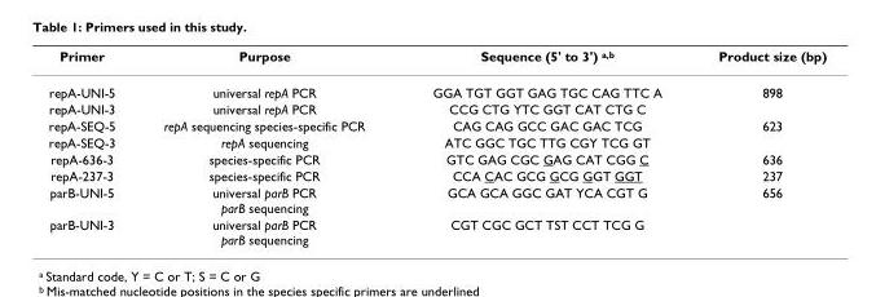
<table><thead><tr><td>Primer</td><td>Purpose</td><td>Sequence (5&#x27; to 3&#x27;) <sup>a,b</sup></td><td>Product size (bp)</td></tr></thead><tbody><tr><td>repA-UNI-5</td><td>universal repA PCR</td><td>GGA TGT GGT GAG TGC CAG TTC A</td><td>898</td></tr><tr><td>repA-UNI-3</td><td>universal repA PCR</td><td>CCG CTG YTC GGT CAT CTG C</td><td></td></tr><tr><td>repA-SEQ-5</td><td>repA sequencing species-specific PCR</td><td>CAG CAG GCC GAC GAC TCG</td><td>623</td></tr><tr><td>repA-SEQ-3</td><td>repA sequencing</td><td>ATC GGC TGC TTG CGY TCG GT</td><td></td></tr><tr><td>repA-636-3</td><td>species-specific PCR</td><td>GTC GAG CGC GAG CAT CGG C</td><td>636</td></tr><tr><td>repA-237-3</td><td>species-specific PCR</td><td>CCA CAC GCG GCG GGT GGT</td><td>237</td></tr><tr><td>parB-UNI-5</td><td>universal parB PCR parB sequencing</td><td>GCA GCA GGC GAT YCA CGT G</td><td>656</td></tr><tr><td>parB-UNI-3</td><td>universal parB PCR parB sequencing</td><td>CGT CGC GCT TST CCT TCG G</td><td></td></tr></tbody></table>